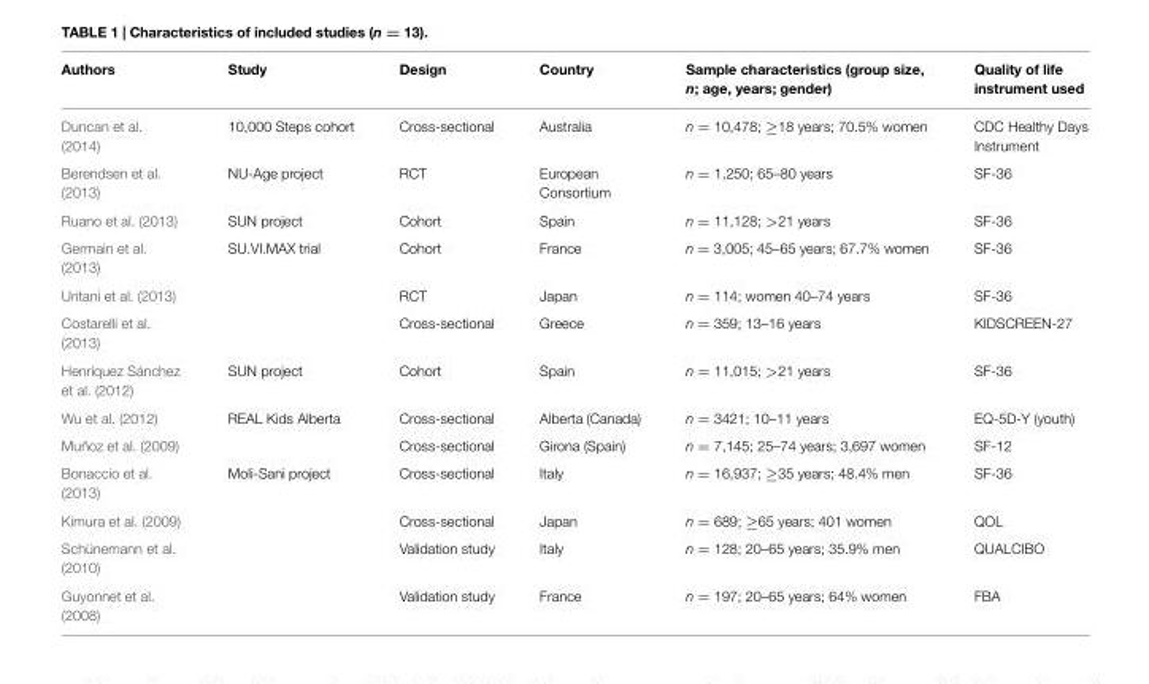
<table><thead><tr><td>Authors</td><td>Study</td><td>Design</td><td>Country</td><td>Sample characteristics (group size, n; age, years; gender)</td><td>Quality of life instrument used</td></tr></thead><tbody><tr><td>Duncan et al. (2014)</td><td>10,000 Steps cohort</td><td>Cross-sectional</td><td>Australia</td><td>n = 10,478; ≥18 years; 70.5% women</td><td>CDC Healthy Days Instrument</td></tr><tr><td>Berendsen et al. (2013)</td><td>NU-Age project</td><td>RCT</td><td>European Consortium</td><td>n = 1,250; 65–80 years</td><td>SF-36</td></tr><tr><td>Ruano et al. (2013)</td><td>SUN project</td><td>Cohort</td><td>Spain</td><td>n = 11,128; &gt;21 years</td><td>SF-36</td></tr><tr><td>Germain et al. (2013)</td><td>SU.VI.MAX trial</td><td>Cohort</td><td>France</td><td>n = 3,005; 45–65 years; 67.7% women</td><td>SF-36</td></tr><tr><td>Uritani et al. (2013)</td><td></td><td>RCT</td><td>Japan</td><td>n = 114; women 40–74 years</td><td>SF-36</td></tr><tr><td>Costarelli et al. (2013)</td><td></td><td>Cross-sectional</td><td>Greece</td><td>n = 359; 13–16 years</td><td>KIDSCREEN-27</td></tr><tr><td>Henríquez Sánchez et al. (2012)</td><td>SUN project</td><td>Cohort</td><td>Spain</td><td>n = 11,015; &gt;21 years</td><td>SF-36</td></tr><tr><td>Wu et al. (2012)</td><td>REAL Kids Alberta</td><td>Cross-sectional</td><td>Alberta (Canada)</td><td>n = 3421; 10–11 years</td><td>EQ-5D-Y (youth)</td></tr><tr><td>Muñoz et al. (2009)</td><td></td><td>Cross-sectional</td><td>Girona (Spain)</td><td>n = 7,145; 25–74 years; 3,697 women</td><td>SF-12</td></tr><tr><td>Bonaccio et al. (2013)</td><td>Moli-Sani project</td><td>Cross-sectional</td><td>Italy</td><td>n = 16,937; ≥35 years; 48.4% men</td><td>SF-36</td></tr><tr><td>Kimura et al. (2009)</td><td></td><td>Cross-sectional</td><td>Japan</td><td>n = 689; ≥65 years; 401 women</td><td>QOL</td></tr><tr><td>Schünemann et al. (2010)</td><td></td><td>Validation study</td><td>Italy</td><td>n = 128; 20–65 years; 35.9% men</td><td>QUALCIBO</td></tr><tr><td>Guyonnet et al. (2008)</td><td></td><td>Validation study</td><td>France</td><td>n = 197; 20–65 years; 64% women</td><td>FBA</td></tr></tbody></table>